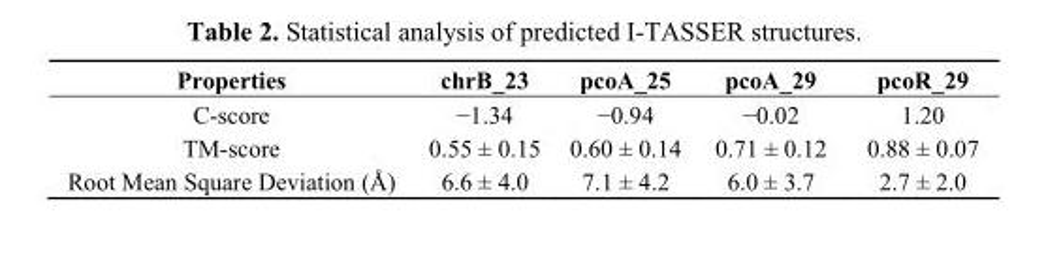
<table><thead><tr><td>Properties</td><td>chrB_23</td><td>pcoA_25</td><td>pcoA_29</td><td>pcoR_29</td></tr></thead><tbody><tr><td>C-score</td><td>−1.34</td><td>−0.94</td><td>−0.02</td><td>1.20</td></tr><tr><td>TM-score</td><td>0.55 ± 0.15</td><td>0.60 ± 0.14</td><td>0.71 ± 0.12</td><td>0.88 ± 0.07</td></tr><tr><td>Root Mean Square Deviation (Å)</td><td>6.6 ± 4.0</td><td>7.1 ± 4.2</td><td>6.0 ± 3.7</td><td>2.7 ± 2.0</td></tr></tbody></table>